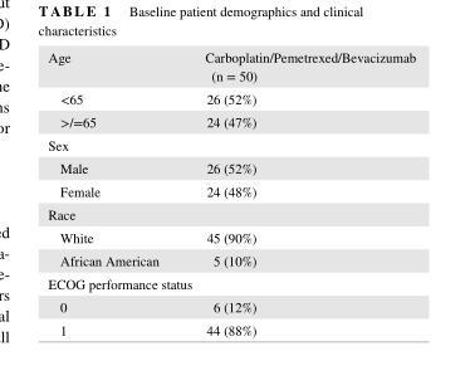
<table><tbody><tr><td>Age</td><td>Carboplatin/Pemetrexed/Bevacizumab (n = 50)</td></tr><tr><td>&lt;65</td><td>26 (52%)</td></tr><tr><td>&gt;/=65</td><td>24 (47%)</td></tr><tr><td colspan="2">Sex</td></tr><tr><td>Male</td><td>26 (52%)</td></tr><tr><td>Female</td><td>24 (48%)</td></tr><tr><td colspan="2">Race</td></tr><tr><td>White</td><td>45 (90%)</td></tr><tr><td>African American</td><td>5 (10%)</td></tr><tr><td colspan="2">ECOG performance status</td></tr><tr><td>0</td><td>6 (12%)</td></tr><tr><td>1</td><td>44 (88%)</td></tr></tbody></table>